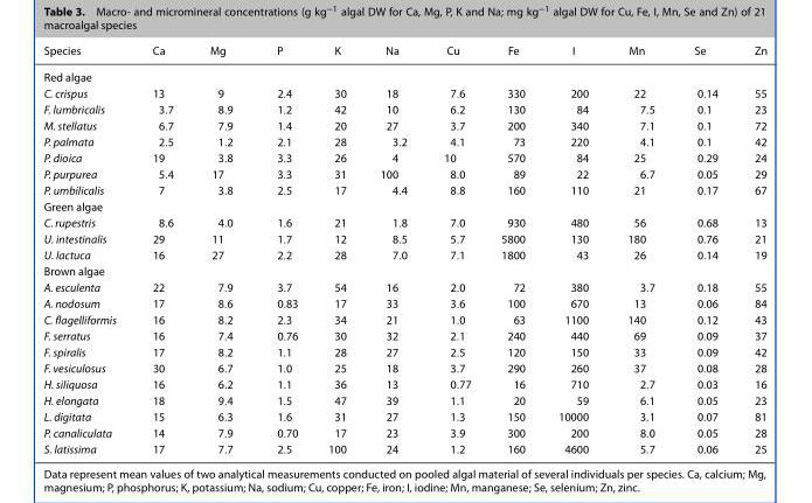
<table><thead><tr><td>Species</td><td>Ca</td><td>Mg</td><td>P</td><td>K</td><td>Na</td><td>Cu</td><td>Fe</td><td>I</td><td>Mn</td><td>Se</td><td>Zn</td></tr></thead><tbody><tr><td colspan="12">Red algae</td></tr><tr><td>C. crispus</td><td>13</td><td>9</td><td>2.4</td><td>30</td><td>18</td><td>7.6</td><td>330</td><td>200</td><td>22</td><td>0.14</td><td>55</td></tr><tr><td>F. lumbricalis</td><td>3.7</td><td>8.9</td><td>1.2</td><td>42</td><td>10</td><td>6.2</td><td>130</td><td>84</td><td>7.5</td><td>0.1</td><td>23</td></tr><tr><td>M. stellatus</td><td>6.7</td><td>7.9</td><td>1.4</td><td>20</td><td>27</td><td>3.7</td><td>200</td><td>340</td><td>7.1</td><td>0.1</td><td>72</td></tr><tr><td>P. palmata</td><td>2.5</td><td>1.2</td><td>2.1</td><td>28</td><td>3.2</td><td>4.1</td><td>73</td><td>220</td><td>4.1</td><td>0.1</td><td>42</td></tr><tr><td>P. dioica</td><td>19</td><td>3.8</td><td>3.3</td><td>26</td><td>4</td><td>10</td><td>570</td><td>84</td><td>25</td><td>0.29</td><td>24</td></tr><tr><td>P. purpurea</td><td>5.4</td><td>17</td><td>3.3</td><td>31</td><td>100</td><td>8.0</td><td>89</td><td>22</td><td>6.7</td><td>0.05</td><td>29</td></tr><tr><td>P. umbilicalis</td><td>7</td><td>3.8</td><td>2.5</td><td>17</td><td>4.4</td><td>8.8</td><td>160</td><td>110</td><td>21</td><td>0.17</td><td>67</td></tr><tr><td colspan="12">Green algae</td></tr><tr><td>C. rupestris</td><td>8.6</td><td>4.0</td><td>1.6</td><td>21</td><td>1.8</td><td>7.0</td><td>930</td><td>480</td><td>56</td><td>0.68</td><td>13</td></tr><tr><td>U. intestinalis</td><td>29</td><td>11</td><td>1.7</td><td>12</td><td>8.5</td><td>5.7</td><td>5800</td><td>130</td><td>180</td><td>0.76</td><td>21</td></tr><tr><td>U. lactuca</td><td>16</td><td>27</td><td>2.2</td><td>28</td><td>7.0</td><td>7.1</td><td>1800</td><td>43</td><td>26</td><td>0.14</td><td>19</td></tr><tr><td colspan="12">Brown algae</td></tr><tr><td>A. esculenta</td><td>22</td><td>7.9</td><td>3.7</td><td>54</td><td>16</td><td>2.0</td><td>72</td><td>380</td><td>3.7</td><td>0.18</td><td>55</td></tr><tr><td>A. nodosum</td><td>17</td><td>8.6</td><td>0.83</td><td>17</td><td>33</td><td>3.6</td><td>100</td><td>670</td><td>13</td><td>0.06</td><td>84</td></tr><tr><td>C. flagelliformis</td><td>16</td><td>8.2</td><td>2.3</td><td>34</td><td>21</td><td>1.0</td><td>63</td><td>1100</td><td>140</td><td>0.12</td><td>43</td></tr><tr><td>F. serratus</td><td>16</td><td>7.4</td><td>0.76</td><td>30</td><td>32</td><td>2.1</td><td>240</td><td>440</td><td>69</td><td>0.09</td><td>37</td></tr><tr><td>F. spiralis</td><td>17</td><td>8.2</td><td>1.1</td><td>28</td><td>27</td><td>2.5</td><td>120</td><td>150</td><td>33</td><td>0.09</td><td>42</td></tr><tr><td>F. vesiculosus</td><td>30</td><td>6.7</td><td>1.0</td><td>25</td><td>18</td><td>3.7</td><td>290</td><td>260</td><td>37</td><td>0.08</td><td>28</td></tr><tr><td>H. siliquosa</td><td>16</td><td>6.2</td><td>1.1</td><td>36</td><td>13</td><td>0.77</td><td>16</td><td>710</td><td>2.7</td><td>0.03</td><td>16</td></tr><tr><td>H. elongata</td><td>18</td><td>9.4</td><td>1.5</td><td>47</td><td>39</td><td>1.1</td><td>20</td><td>59</td><td>6.1</td><td>0.05</td><td>23</td></tr><tr><td>L. digitata</td><td>15</td><td>6.3</td><td>1.6</td><td>31</td><td>27</td><td>1.3</td><td>150</td><td>10000</td><td>3.1</td><td>0.07</td><td>81</td></tr><tr><td>P. canaliculata</td><td>14</td><td>7.9</td><td>0.70</td><td>17</td><td>23</td><td>3.9</td><td>300</td><td>200</td><td>8.0</td><td>0.05</td><td>28</td></tr><tr><td>S. latissima</td><td>17</td><td>7.7</td><td>2.5</td><td>100</td><td>24</td><td>1.2</td><td>160</td><td>4600</td><td>5.7</td><td>0.06</td><td>25</td></tr></tbody></table>